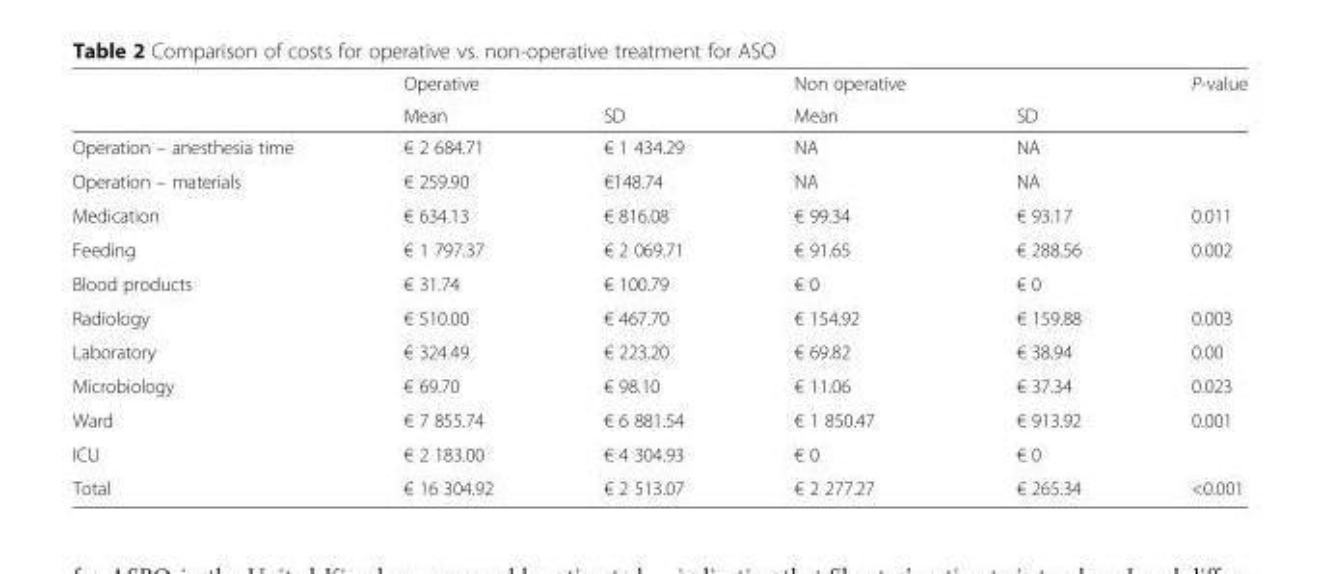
<table><thead><tr><td rowspan="2"></td><td rowspan="2">Operative Mean</td><td rowspan="2">SD</td><td rowspan="2">Non operative Mean</td><td rowspan="2">SD</td><td rowspan="2">P-value</td></tr><tr></tr></thead><tbody><tr><td>Operation – anesthesia time</td><td>€ 2 684.71</td><td>€ 1 434.29</td><td>NA</td><td>NA</td><td></td></tr><tr><td>Operation – materials</td><td>€ 259.90</td><td>€148.74</td><td>NA</td><td>NA</td><td></td></tr><tr><td>Medication</td><td>€ 634.13</td><td>€ 816.08</td><td>€ 99.34</td><td>€ 93.17</td><td>0.011</td></tr><tr><td>Feeding</td><td>€ 1 797.37</td><td>€ 2 069.71</td><td>€ 91.65</td><td>€ 288.56</td><td>0.002</td></tr><tr><td>Blood products</td><td>€ 31.74</td><td>€ 100.79</td><td>€ 0</td><td>€ 0</td><td></td></tr><tr><td>Radiology</td><td>€ 510.00</td><td>€ 467.70</td><td>€ 154.92</td><td>€ 159.88</td><td>0.003</td></tr><tr><td>Laboratory</td><td>€ 324.49</td><td>€ 223.20</td><td>€ 69.82</td><td>€ 38.94</td><td>0.00</td></tr><tr><td>Microbiology</td><td>€ 69.70</td><td>€ 98.10</td><td>€ 11.06</td><td>€ 37.34</td><td>0.023</td></tr><tr><td>Ward</td><td>€ 7 855.74</td><td>€ 6 881.54</td><td>€ 1 850.47</td><td>€ 913.92</td><td>0.001</td></tr><tr><td>ICU</td><td>€ 2 183.00</td><td>€ 4 304.93</td><td>€ 0</td><td>€ 0</td><td></td></tr><tr><td>Total</td><td>€ 16 304.92</td><td>€ 2 513.07</td><td>€ 2 277.27</td><td>€ 265.34</td><td>&lt;0.001</td></tr></tbody></table>